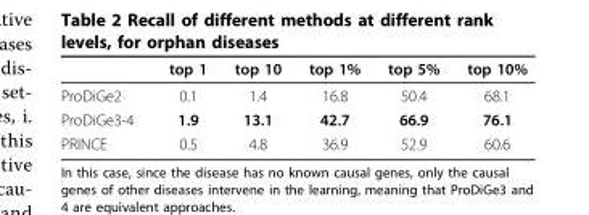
<table><thead><tr><td></td><td>top 1</td><td>top 10</td><td>top 1%</td><td>top 5%</td><td>top 10%</td></tr></thead><tbody><tr><td>ProDiGe2</td><td>0.1</td><td>1.4</td><td>16.8</td><td>50.4</td><td>68.1</td></tr><tr><td>ProDiGe3-4</td><td>1.9</td><td>13.1</td><td>42.7</td><td>66.9</td><td>76.1</td></tr><tr><td>PRINCE</td><td>0.5</td><td>4.8</td><td>36.9</td><td>52.9</td><td>60.6</td></tr></tbody></table>